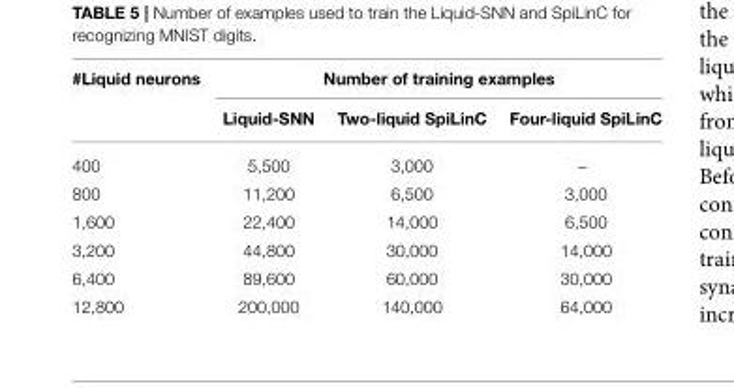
<table><thead><tr><td rowspan="2">#Liquid neurons</td><td colspan="3">Number of training examples</td></tr><tr><td>Liquid-SNN</td><td>Two-liquid SpiLinC</td><td>Four-liquid SpiLinC</td></tr></thead><tbody><tr><td>400</td><td>5,500</td><td>3,000</td><td>–</td></tr><tr><td>800</td><td>11,200</td><td>6,500</td><td>3,000</td></tr><tr><td>1,600</td><td>22,400</td><td>14,000</td><td>6,500</td></tr><tr><td>3,200</td><td>44,800</td><td>30,000</td><td>14,000</td></tr><tr><td>6,400</td><td>89,600</td><td>60,000</td><td>30,000</td></tr><tr><td>12,800</td><td>200,000</td><td>140,000</td><td>64,000</td></tr></tbody></table>